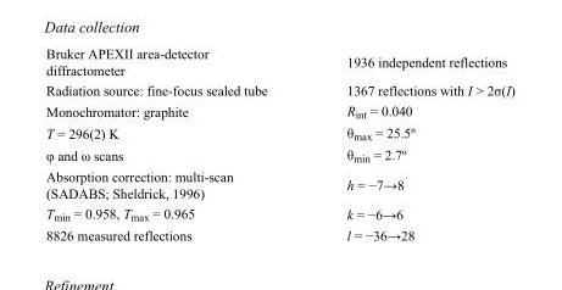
<table><tbody><tr><td>Bruker APEXII area-detector diffractometer</td><td>1936 independent reflections</td></tr><tr><td>Radiation source: fine-focus sealed tube</td><td>1367 reflections with I &gt; 2σ(I)</td></tr><tr><td>Monochromator: graphite</td><td>R<sub>int</sub> = 0.040</td></tr><tr><td>T = 296(2) K</td><td>θ<sub>max</sub> = 25.5º</td></tr><tr><td>φ and ω scans</td><td>θ<sub>min</sub> = 2.7º</td></tr><tr><td>Absorption correction: multi-scan (SADABS; Sheldrick, 1996)</td><td>h = −7→8</td></tr><tr><td>T<sub>min</sub> = 0.958, T<sub>max</sub> = 0.965</td><td>k = −6→6</td></tr><tr><td>8826 measured reflections</td><td>l = −36→28</td></tr></tbody></table>